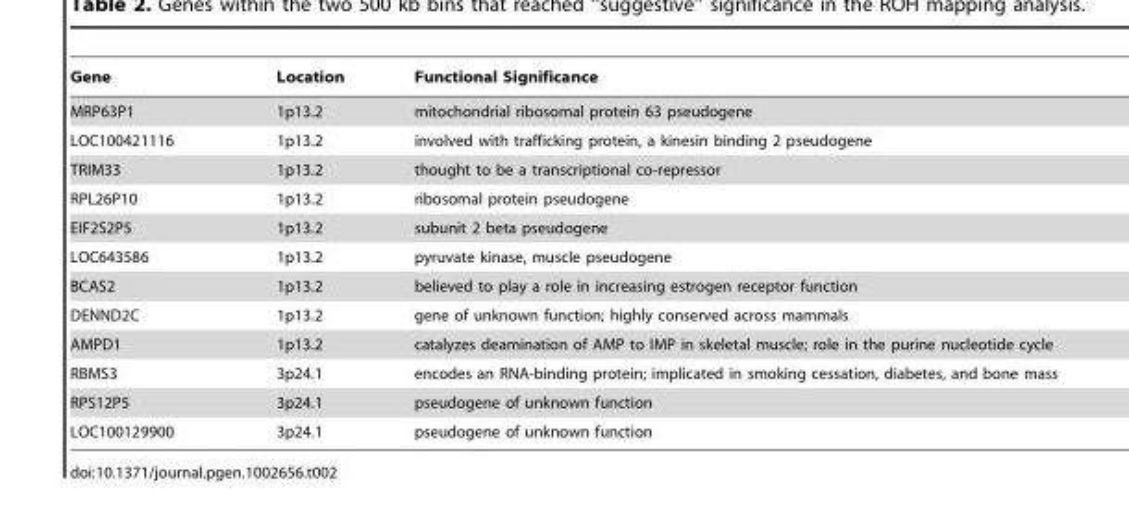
<table><thead><tr><td>Gene</td><td>Location</td><td>Functional Significance</td></tr></thead><tbody><tr><td>MRP63P1</td><td>1p13.2</td><td>mitochondrial ribosomal protein 63 pseudogene</td></tr><tr><td>LOC100421116</td><td>1p13.2</td><td>involved with trafficking protein, a kinesin binding 2 pseudogene</td></tr><tr><td>TRIM33</td><td>1p13.2</td><td>thought to be a transcriptional co-repressor</td></tr><tr><td>RPL26P10</td><td>1p13.2</td><td>ribosomal protein pseudogene</td></tr><tr><td>EIF2S2P5</td><td>1p13.2</td><td>subunit 2 beta pseudogene</td></tr><tr><td>LOC643586</td><td>1p13.2</td><td>pyruvate kinase, muscle pseudogene</td></tr><tr><td>BCAS2</td><td>1p13.2</td><td>believed to play a role in increasing estrogen receptor function</td></tr><tr><td>DENND2C</td><td>1p13.2</td><td>gene of unknown function; highly conserved across mammals</td></tr><tr><td>AMPD1</td><td>1p13.2</td><td>catalyzes deamination of AMP to IMP in skeletal muscle; role in the purine nucleotide cycle</td></tr><tr><td>RBMS3</td><td>3p24.1</td><td>encodes an RNA-binding protein; implicated in smoking cessation, diabetes, and bone mass</td></tr><tr><td>RPS12P5</td><td>3p24.1</td><td>pseudogene of unknown function</td></tr><tr><td>LOC100129900</td><td>3p24.1</td><td>pseudogene of unknown function</td></tr></tbody></table>